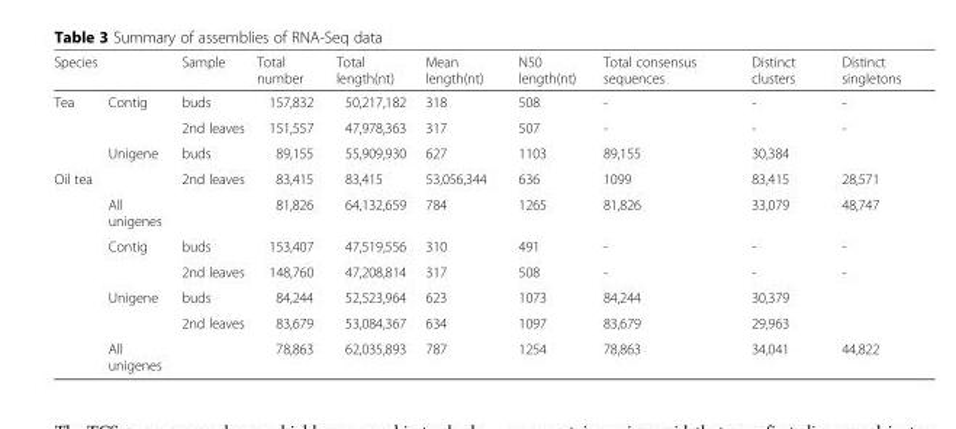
<table><thead><tr><td>Species</td><td></td><td>Sample</td><td>Total number</td><td>Total length(nt)</td><td>Mean length(nt)</td><td>N50 length(nt)</td><td>Total consensus sequences</td><td>Distinct clusters</td><td>Distinct singletons</td></tr></thead><tbody><tr><td rowspan="3">Tea</td><td rowspan="2">Contig</td><td>buds</td><td>157,832</td><td>50,217,182</td><td>318</td><td>508</td><td>-</td><td>-</td><td>-</td></tr><tr><td>2nd leaves</td><td>151,557</td><td>47,978,363</td><td>317</td><td>507</td><td>-</td><td>-</td><td>-</td></tr><tr><td rowspan="2">Unigene</td><td>buds</td><td>89,155</td><td>55,909,930</td><td>627</td><td>1103</td><td>89,155</td><td>30,384</td><td></td></tr><tr><td rowspan="7">Oil tea</td><td>2nd leaves</td><td>83,415</td><td>83,415</td><td>53,056,344</td><td>636</td><td>1099</td><td>83,415</td><td>28,571</td></tr><tr><td>All unigenes</td><td></td><td>81,826</td><td>64,132,659</td><td>784</td><td>1265</td><td>81,826</td><td>33,079</td><td>48,747</td></tr><tr><td rowspan="2">Contig</td><td>buds</td><td>153,407</td><td>47,519,556</td><td>310</td><td>491</td><td>-</td><td>-</td><td>-</td></tr><tr><td>2nd leaves</td><td>148,760</td><td>47,208,814</td><td>317</td><td>508</td><td>-</td><td>-</td><td>-</td></tr><tr><td rowspan="2">Unigene</td><td>buds</td><td>84,244</td><td>52,523,964</td><td>623</td><td>1073</td><td>84,244</td><td>30,379</td><td></td></tr><tr><td>2nd leaves</td><td>83,679</td><td>53,084,367</td><td>634</td><td>1097</td><td>83,679</td><td>29,963</td><td></td></tr><tr><td>All unigenes</td><td></td><td>78,863</td><td>62,035,893</td><td>787</td><td>1254</td><td>78,863</td><td>34,041</td><td>44,822</td></tr></tbody></table>